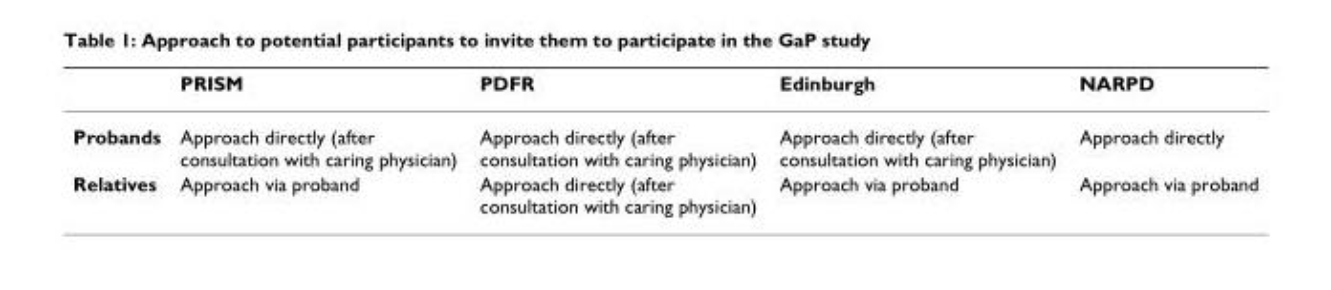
<table><thead><tr><td></td><td>PRISM</td><td>PDFR</td><td>Edinburgh</td><td>NARPD</td></tr></thead><tbody><tr><td>Probands</td><td>Approach directly (after consultation with caring physician)</td><td>Approach directly (after consultation with caring physician)</td><td>Approach directly (after consultation with caring physician)</td><td>Approach directly</td></tr><tr><td>Relatives</td><td>Approach via proband</td><td>Approach directly (after consultation with caring physician)</td><td>Approach via proband</td><td>Approach via proband</td></tr></tbody></table>